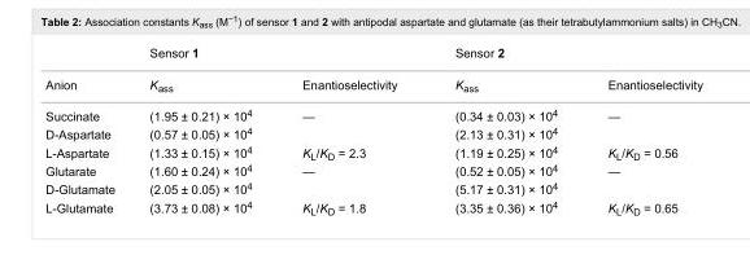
<table><thead><tr><td rowspan="2">Anion</td><td colspan="2">Sensor 1</td><td colspan="2">Sensor 2</td></tr><tr><td>K<sub>ass</sub></td><td>Enantioselectivity</td><td>K<sub>ass</sub></td><td>Enantioselectivity</td></tr></thead><tbody><tr><td>Succinate</td><td>(1.95 ± 0.21) × 10<sup>4</sup></td><td>—</td><td>(0.34 ± 0.03) × 10<sup>4</sup></td><td>—</td></tr><tr><td>D-Aspartate</td><td>(0.57 ± 0.05) × 10<sup>4</sup></td><td></td><td>(2.13 ± 0.31) × 10<sup>4</sup></td><td></td></tr><tr><td>L-Aspartate</td><td>(1.33 ± 0.15) × 10<sup>4</sup></td><td>K<sub>L</sub>/K<sub>D</sub> = 2.3</td><td>(1.19 ± 0.25) × 10<sup>4</sup></td><td>K<sub>L</sub>/K<sub>D</sub> = 0.56</td></tr><tr><td>Glutarate</td><td>(1.60 ± 0.24) × 10<sup>4</sup></td><td>—</td><td>(0.52 ± 0.05) × 10<sup>4</sup></td><td>—</td></tr><tr><td>D-Glutamate</td><td>(2.05 ± 0.05) × 10<sup>4</sup></td><td></td><td>(5.17 ± 0.31) × 10<sup>4</sup></td><td></td></tr><tr><td>L-Glutamate</td><td>(3.73 ± 0.08) × 10<sup>4</sup></td><td>K<sub>L</sub>/K<sub>D</sub> = 1.8</td><td>(3.35 ± 0.36) × 10<sup>4</sup></td><td>K<sub>L</sub>/K<sub>D</sub> = 0.65</td></tr></tbody></table>